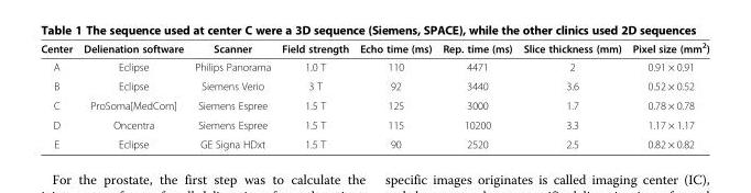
<table><thead><tr><td>Center</td><td>Delienation software</td><td>Scanner</td><td>Field strength</td><td>Echo time (ms)</td><td>Rep. time (ms)</td><td>Slice thickness (mm)</td><td>Pixel size (mm<sup>2</sup>)</td></tr></thead><tbody><tr><td>A</td><td>Eclipse</td><td>Philips Panorama</td><td>1.0 T</td><td>110</td><td>4471</td><td>2</td><td>0.91 × 0.91</td></tr><tr><td>B</td><td>Eclipse</td><td>Siemens Verio</td><td>3 T</td><td>92</td><td>3440</td><td>3.6</td><td>0.52 × 0.52</td></tr><tr><td>C</td><td>ProSoma[MedCom]</td><td>Siemens Espree</td><td>1.5 T</td><td>125</td><td>3000</td><td>1.7</td><td>0.78 × 0.78</td></tr><tr><td>D</td><td>Oncentra</td><td>Siemens Espree</td><td>1.5 T</td><td>115</td><td>10200</td><td>3.3</td><td>1.17 × 1.17</td></tr><tr><td>E</td><td>Eclipse</td><td>GE Signa HDxt</td><td>1.5 T</td><td>90</td><td>2520</td><td>2.5</td><td>0.82 × 0.82</td></tr></tbody></table>